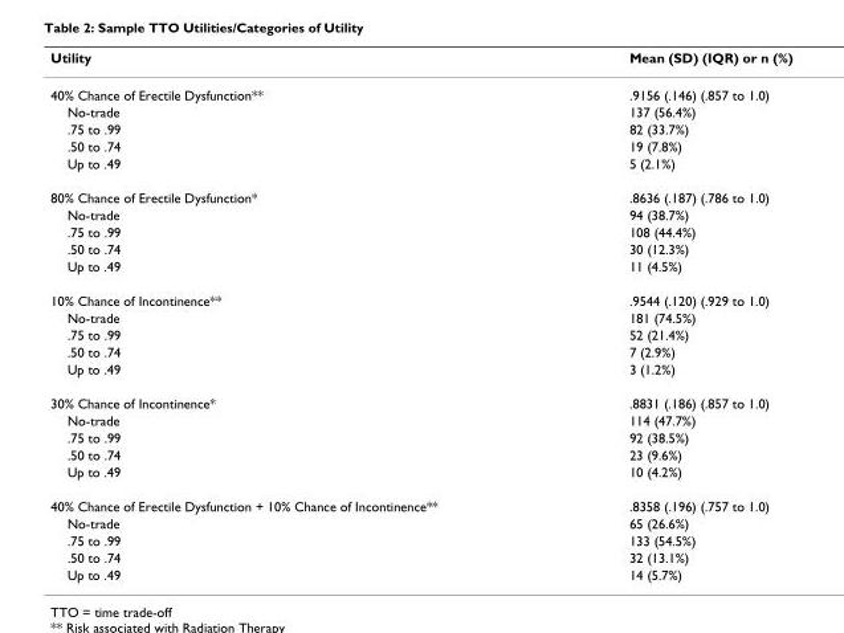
<table><thead><tr><td>Utility</td><td>Mean (SD) (IQR) or n (%)</td></tr></thead><tbody><tr><td>40% Chance of Erectile Dysfunction**</td><td>.9156 (.146) (.857 to 1.0)</td></tr><tr><td>No-trade</td><td>137 (56.4%)</td></tr><tr><td>.75 to .99</td><td>82 (33.7%)</td></tr><tr><td>.50 to .74</td><td>19 (7.8%)</td></tr><tr><td>Up to .49</td><td>5 (2.1%)</td></tr><tr><td>80% Chance of Erectile Dysfunction*</td><td>.8636 (.187) (.786 to 1.0)</td></tr><tr><td>No-trade</td><td>94 (38.7%)</td></tr><tr><td>.75 to .99</td><td>108 (44.4%)</td></tr><tr><td>.50 to .74</td><td>30 (12.3%)</td></tr><tr><td>Up to .49</td><td>11 (4.5%)</td></tr><tr><td>10% Chance of Incontinence**</td><td>.9544 (.120) (.929 to 1.0)</td></tr><tr><td>No-trade</td><td>181 (74.5%)</td></tr><tr><td>.75 to .99</td><td>52 (21.4%)</td></tr><tr><td>.50 to .74</td><td>7 (2.9%)</td></tr><tr><td>Up to .49</td><td>3 (1.2%)</td></tr><tr><td>30% Chance of Incontinence*</td><td>.8831 (.186) (.857 to 1.0)</td></tr><tr><td>No-trade</td><td>114 (47.7%)</td></tr><tr><td>.75 to .99</td><td>92 (38.5%)</td></tr><tr><td>.50 to .74</td><td>23 (9.6%)</td></tr><tr><td>Up to .49</td><td>10 (4.2%)</td></tr><tr><td>40% Chance of Erectile Dysfunction + 10% Chance of Incontinence**</td><td>.8358 (.196) (.757 to 1.0)</td></tr><tr><td>No-trade</td><td>65 (26.6%)</td></tr><tr><td>.75 to .99</td><td>133 (54.5%)</td></tr><tr><td>.50 to .74</td><td>32 (13.1%)</td></tr><tr><td>Up to .49</td><td>14 (5.7%)</td></tr></tbody></table>